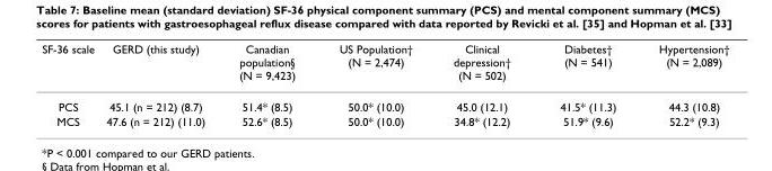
<table><thead><tr><td>SF-36 scale</td><td>GERD (this study)</td><td>Canadian population§ (N = 9,423)</td><td>US Population† (N = 2,474)</td><td>Clinical depression† (N = 502)</td><td>Diabetes† (N = 541)</td><td>Hypertension† (N = 2,089)</td></tr></thead><tbody><tr><td>PCS</td><td>45.1 (n = 212) (8.7)</td><td>51.4* (8.5)</td><td>50.0* (10.0)</td><td>45.0 (12.1)</td><td>41.5* (11.3)</td><td>44.3 (10.8)</td></tr><tr><td>MCS</td><td>47.6 (n = 212) (11.0)</td><td>52.6* (8.5)</td><td>50.0* (10.0)</td><td>34.8* (12.2)</td><td>51.9* (9.6)</td><td>52.2* (9.3)</td></tr></tbody></table>